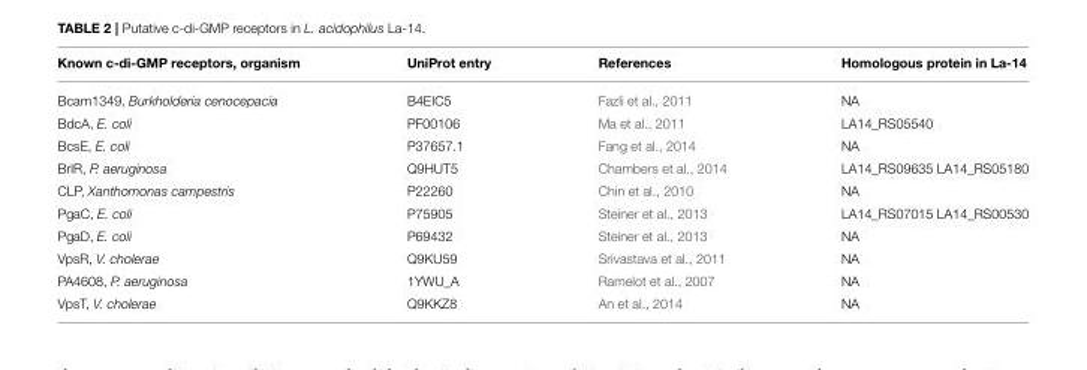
<table><thead><tr><td>Known c-di-GMP receptors, organism</td><td>UniProt entry</td><td>References</td><td>Homologous protein in La-14</td></tr></thead><tbody><tr><td>Bcam1349, Burkholderia cenocepacia</td><td>B4EIC5</td><td>Fazli et al., 2011</td><td>NA</td></tr><tr><td>BdcA, E. coli</td><td>PF00106</td><td>Ma et al., 2011</td><td>LA14_RS05540</td></tr><tr><td>BcsE, E. coli</td><td>P37657.1</td><td>Fang et al., 2014</td><td>NA</td></tr><tr><td>BrlR, P. aeruginosa</td><td>Q9HUT5</td><td>Chambers et al., 2014</td><td>LA14_RS09635 LA14_RS05180</td></tr><tr><td>CLP, Xanthomonas campestris</td><td>P22260</td><td>Chin et al., 2010</td><td>NA</td></tr><tr><td>PgaC, E. coli</td><td>P75905</td><td>Steiner et al., 2013</td><td>LA14_RS07015 LA14_RS00530</td></tr><tr><td>PgaD, E. coli</td><td>P69432</td><td>Steiner et al., 2013</td><td>NA</td></tr><tr><td>VpsR, V. cholerae</td><td>Q9KU59</td><td>Srivastava et al., 2011</td><td>NA</td></tr><tr><td>PA4608, P. aeruginosa</td><td>1YWU_A</td><td>Ramelot et al., 2007</td><td>NA</td></tr><tr><td>VpsT, V. cholerae</td><td>Q9KKZ8</td><td>An et al., 2014</td><td>NA</td></tr></tbody></table>